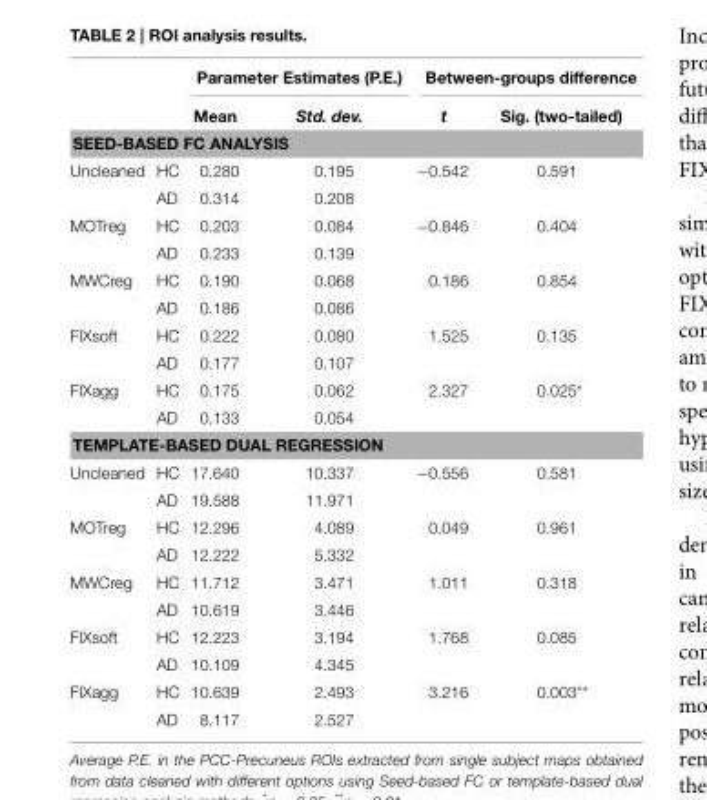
<table><thead><tr><td rowspan="2"></td><td rowspan="2"></td><td colspan="2">Parameter Estimates (P.E.)</td><td colspan="2">Between-groups difference</td></tr><tr><td>Mean</td><td>Std. dev.</td><td>t</td><td>Sig. (two-tailed)</td></tr></thead><tbody><tr><td colspan="6">SEED-BASED FC ANALYSIS</td></tr><tr><td rowspan="2">Uncleaned</td><td>HC</td><td>0.280</td><td>0.195</td><td>−0.542</td><td>0.591</td></tr><tr><td>AD</td><td>0.314</td><td>0.208</td><td></td><td></td></tr><tr><td rowspan="2">MOTreg</td><td>HC</td><td>0.203</td><td>0.084</td><td>−0.846</td><td>0.404</td></tr><tr><td>AD</td><td>0.233</td><td>0.139</td><td></td><td></td></tr><tr><td rowspan="2">MWCreg</td><td>HC</td><td>0.190</td><td>0.068</td><td>0.186</td><td>0.854</td></tr><tr><td>AD</td><td>0.186</td><td>0.086</td><td></td><td></td></tr><tr><td rowspan="2">FIXsoft</td><td>HC</td><td>0.222</td><td>0.080</td><td>1.525</td><td>0.135</td></tr><tr><td>AD</td><td>0.177</td><td>0.107</td><td></td><td></td></tr><tr><td rowspan="2">FIXagg</td><td>HC</td><td>0.175</td><td>0.062</td><td>2.327</td><td>0.025*</td></tr><tr><td>AD</td><td>0.133</td><td>0.054</td><td></td><td></td></tr><tr><td colspan="6">TEMPLATE-BASED DUAL REGRESSION</td></tr><tr><td rowspan="2">Uncleaned</td><td>HC</td><td>17.640</td><td>10.337</td><td>−0.556</td><td>0.581</td></tr><tr><td>AD</td><td>19.588</td><td>11.971</td><td></td><td></td></tr><tr><td rowspan="2">MOTreg</td><td>HC</td><td>12.296</td><td>4.089</td><td>0.049</td><td>0.961</td></tr><tr><td>AD</td><td>12.222</td><td>5.332</td><td></td><td></td></tr><tr><td rowspan="2">MWCreg</td><td>HC</td><td>11.712</td><td>3.471</td><td>1.011</td><td>0.318</td></tr><tr><td>AD</td><td>10.619</td><td>3.446</td><td></td><td></td></tr><tr><td rowspan="2">FIXsoft</td><td>HC</td><td>12.223</td><td>3.194</td><td>1.768</td><td>0.085</td></tr><tr><td>AD</td><td>10.109</td><td>4.345</td><td></td><td></td></tr><tr><td rowspan="2">FIXagg</td><td>HC</td><td>10.639</td><td>2.493</td><td>3.216</td><td>0.003**</td></tr><tr><td>AD</td><td>8.117</td><td>2.527</td><td></td><td></td></tr></tbody></table>